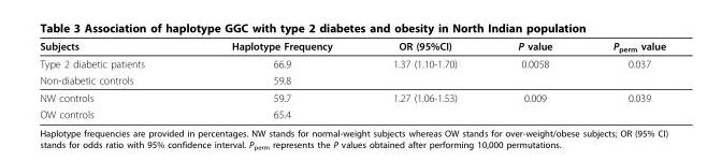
<table><thead><tr><td>Subjects</td><td>Haplotype Frequency</td><td>OR (95%CI)</td><td>P value</td><td>P<sub>perm</sub> value</td></tr></thead><tbody><tr><td>Type 2 diabetic patients</td><td>66.9</td><td>1.37 (1.10-1.70)</td><td>0.0058</td><td>0.037</td></tr><tr><td>Non-diabetic controls</td><td>59.8</td><td></td><td></td><td></td></tr><tr><td>NW controls</td><td>59.7</td><td>1.27 (1.06-1.53)</td><td>0.009</td><td>0.039</td></tr><tr><td>OW controls</td><td>65.4</td><td></td><td></td><td></td></tr></tbody></table>